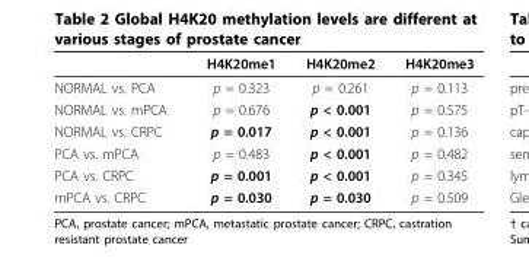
<table><thead><tr><td></td><td>H4K20me1</td><td>H4K20me2</td><td>H4K20me3</td></tr></thead><tbody><tr><td>NORMAL vs. PCA</td><td>p = 0.323</td><td>p = 0.261</td><td>p = 0.113</td></tr><tr><td>NORMAL vs. mPCA</td><td>p = 0.676</td><td>p &lt; 0.001</td><td>p = 0.575</td></tr><tr><td>NORMAL vs. CRPC</td><td>p = 0.017</td><td>p &lt; 0.001</td><td>p = 0.136</td></tr><tr><td>PCA vs. mPCA</td><td>p = 0.483</td><td>p &lt; 0.001</td><td>p = 0.482</td></tr><tr><td>PCA vs. CRPC</td><td>p = 0.001</td><td>p &lt; 0.001</td><td>p = 0.345</td></tr><tr><td>mPCA vs. CRPC</td><td>p = 0.030</td><td>p = 0.030</td><td>p = 0.509</td></tr></tbody></table>